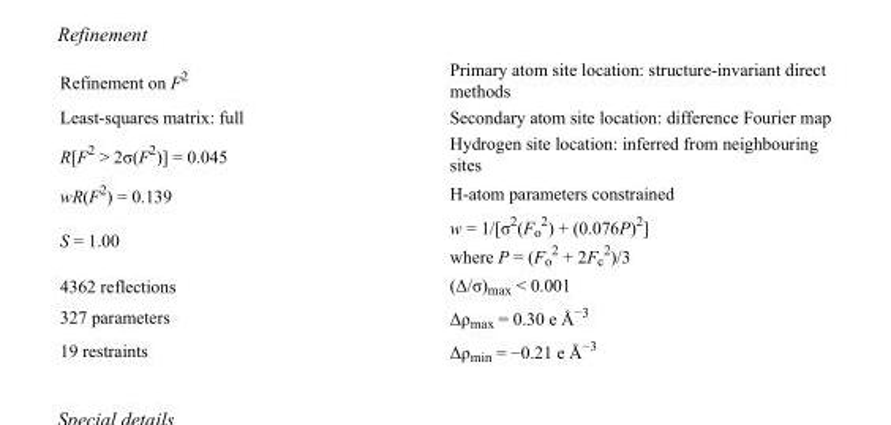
<table><tbody><tr><td>Refinement on F<sup>2</sup></td><td>Primary atom site location: structure-invariant direct methods</td></tr><tr><td>Least-squares matrix: full</td><td>Secondary atom site location: difference Fourier map</td></tr><tr><td>R[F<sup>2</sup> &gt; 2σ(F<sup>2</sup>)] = 0.045</td><td>Hydrogen site location: inferred from neighbouring sites</td></tr><tr><td>wR(F<sup>2</sup>) = 0.139</td><td>H-atom parameters constrained</td></tr><tr><td>S = 1.00</td><td>w = 1/[σ<sup>2</sup>(F<sub>o</sub> <sup>2</sup>) + (0.076P)<sup>2</sup>] where P = (F<sub>o</sub> <sup>2</sup> + 2F<sub>c</sub> <sup>2</sup>)/3</td></tr><tr><td>4362 reflections</td><td>(Δ/σ)<sub>max</sub> &lt; 0.001</td></tr><tr><td>327 parameters</td><td>Δρ<sub>max</sub> = 0.30 e Å<sup>−3</sup></td></tr><tr><td>19 restraints</td><td>Δρ<sub>min</sub> = −0.21 e Å<sup>−3</sup></td></tr></tbody></table>